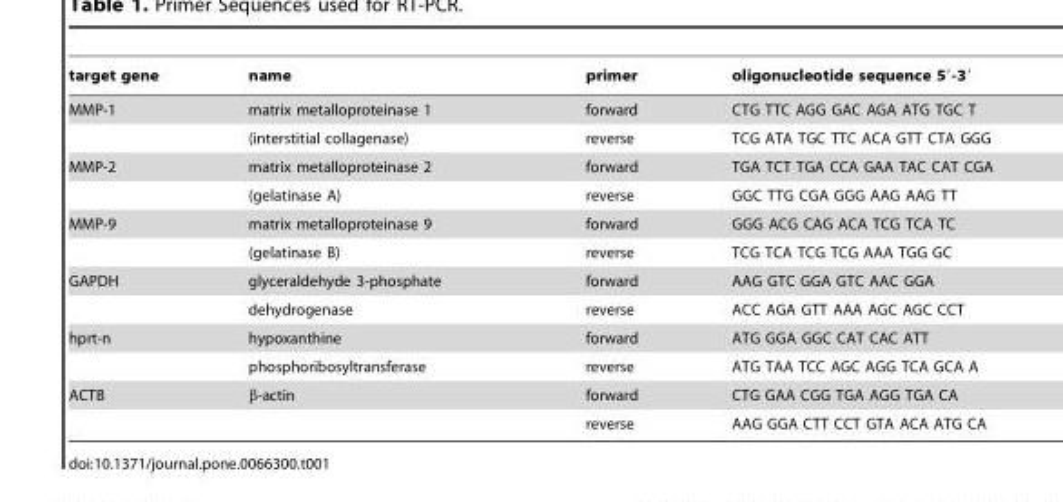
<table><thead><tr><td>target gene</td><td>name</td><td>primer</td><td>oligonucleotide sequence 5′-3′</td></tr></thead><tbody><tr><td rowspan="2">MMP-1</td><td>matrix metalloproteinase 1</td><td>forward</td><td>CTG TTC AGG GAC AGA ATG TGC T</td></tr><tr><td>(interstitial collagenase)</td><td>reverse</td><td>TCG ATA TGC TTC ACA GTT CTA GGG</td></tr><tr><td rowspan="2">MMP-2</td><td>matrix metalloproteinase 2</td><td>forward</td><td>TGA TCT TGA CCA GAA TAC CAT CGA</td></tr><tr><td>(gelatinase A)</td><td>reverse</td><td>GGC TTG CGA GGG AAG AAG TT</td></tr><tr><td rowspan="2">MMP-9</td><td>matrix metalloproteinase 9</td><td>forward</td><td>GGG ACG CAG ACA TCG TCA TC</td></tr><tr><td>(gelatinase B)</td><td>reverse</td><td>TCG TCA TCG TCG AAA TGG GC</td></tr><tr><td rowspan="2">GAPDH</td><td>glyceraldehyde 3-phosphate</td><td>forward</td><td>AAG GTC GGA GTC AAC GGA</td></tr><tr><td>dehydrogenase</td><td>reverse</td><td>ACC AGA GTT AAA AGC AGC CCT</td></tr><tr><td rowspan="2">hprt-n</td><td>hypoxanthine</td><td>forward</td><td>ATG GGA GGC CAT CAC ATT</td></tr><tr><td>phosphoribosyltransferase</td><td>reverse</td><td>ATG TAA TCC AGC AGG TCA GCA A</td></tr><tr><td rowspan="2">ACTB</td><td>β-actin</td><td>forward</td><td>CTG GAA CGG TGA AGG TGA CA</td></tr><tr><td></td><td>reverse</td><td>AAG GGA CTT CCT GTA ACA ATG CA</td></tr></tbody></table>